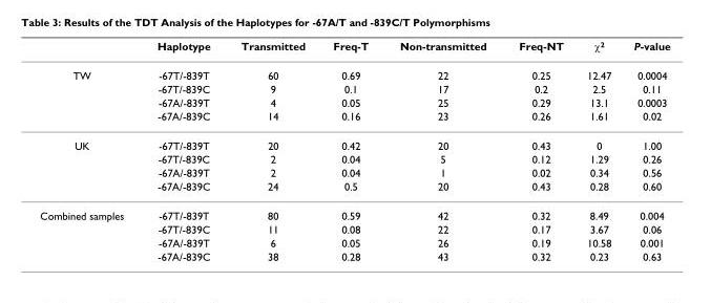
<table><thead><tr><td></td><td>Haplotype</td><td>Transmitted</td><td>Freq-T</td><td>Non-transmitted</td><td>Freq-NT</td><td>χ<sup>2</sup></td><td>P-value</td></tr></thead><tbody><tr><td rowspan="4">TW</td><td>-67T/-839T</td><td>60</td><td>0.69</td><td>22</td><td>0.25</td><td>12.47</td><td>0.0004</td></tr><tr><td>-67T/-839C</td><td>9</td><td>0.1</td><td>17</td><td>0.2</td><td>2.5</td><td>0.11</td></tr><tr><td>-67A/-839T</td><td>4</td><td>0.05</td><td>25</td><td>0.29</td><td>13.1</td><td>0.0003</td></tr><tr><td>-67A/-839C</td><td>14</td><td>0.16</td><td>23</td><td>0.26</td><td>1.61</td><td>0.02</td></tr><tr><td rowspan="4">UK</td><td>-67T/-839T</td><td>20</td><td>0.42</td><td>20</td><td>0.43</td><td>0</td><td>1.00</td></tr><tr><td>-67T/-839C</td><td>2</td><td>0.04</td><td>5</td><td>0.12</td><td>1.29</td><td>0.26</td></tr><tr><td>-67A/-839T</td><td>2</td><td>0.04</td><td>1</td><td>0.02</td><td>0.34</td><td>0.56</td></tr><tr><td>-67A/-839C</td><td>24</td><td>0.5</td><td>20</td><td>0.43</td><td>0.28</td><td>0.60</td></tr><tr><td rowspan="4">Combined samples</td><td>-67T/-839T</td><td>80</td><td>0.59</td><td>42</td><td>0.32</td><td>8.49</td><td>0.004</td></tr><tr><td>-67T/-839C</td><td>11</td><td>0.08</td><td>22</td><td>0.17</td><td>3.67</td><td>0.06</td></tr><tr><td>-67A/-839T</td><td>6</td><td>0.05</td><td>26</td><td>0.19</td><td>10.58</td><td>0.001</td></tr><tr><td>-67A/-839C</td><td>38</td><td>0.28</td><td>43</td><td>0.32</td><td>0.23</td><td>0.63</td></tr></tbody></table>